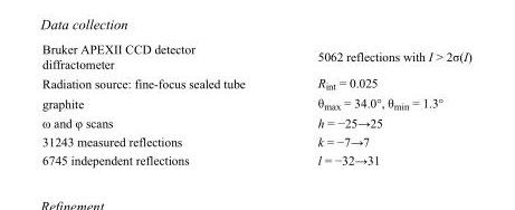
<table><tbody><tr><td>Bruker APEXII CCD detector diffractometer</td><td>5062 reflections with I &gt; 2σ(I)</td></tr><tr><td>Radiation source: fine-focus sealed tube</td><td>R<sub>int</sub> = 0.025</td></tr><tr><td>graphite</td><td>θ<sub>max</sub> = 34.0°, θ<sub>min</sub> = 1.3°</td></tr><tr><td>ω and φ scans</td><td>h = −25→25</td></tr><tr><td>31243 measured reflections</td><td>k = −7→7</td></tr><tr><td>6745 independent reflections</td><td>l = −32→31</td></tr></tbody></table>